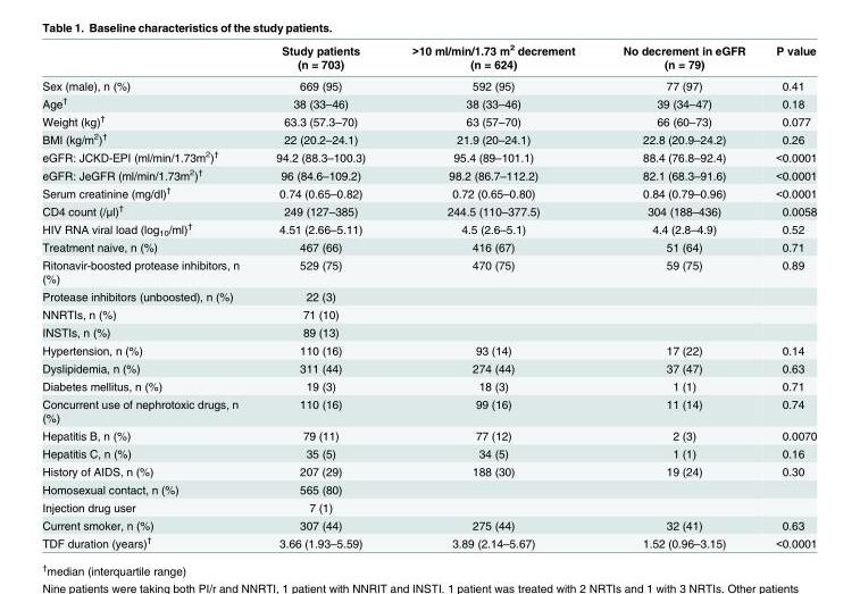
<table><thead><tr><td></td><td>Study patients (n = 703)</td><td>&gt;10 ml/min/1.73 m<sup>2</sup> decrement (n = 624)</td><td>No decrement in eGFR (n = 79)</td><td>P value</td></tr></thead><tbody><tr><td>Sex (male), n (%)</td><td>669 (95)</td><td>592 (95)</td><td>77 (97)</td><td>0.41</td></tr><tr><td>Age<sup>†</sup></td><td>38 (33–46)</td><td>38 (33–46)</td><td>39 (34–47)</td><td>0.18</td></tr><tr><td>Weight (kg)<sup>†</sup></td><td>63.3 (57.3–70)</td><td>63 (57–70)</td><td>66 (60–73)</td><td>0.077</td></tr><tr><td>BMI (kg/m<sup>2</sup>)<sup>†</sup></td><td>22 (20.2–24.1)</td><td>21.9 (20–24.1)</td><td>22.8 (20.9–24.2)</td><td>0.26</td></tr><tr><td>eGFR: JCKD-EPI (ml/min/1.73m<sup>2</sup>)<sup>†</sup></td><td>94.2 (88.3–100.3)</td><td>95.4 (89–101.1)</td><td>88.4 (76.8–92.4)</td><td>&lt;0.0001</td></tr><tr><td>eGFR: JeGFR (ml/min/1.73m<sup>2</sup>)<sup>†</sup></td><td>96 (84.6–109.2)</td><td>98.2 (86.7–112.2)</td><td>82.1 (68.3–91.6)</td><td>&lt;0.0001</td></tr><tr><td>Serum creatinine (mg/dl)<sup>†</sup></td><td>0.74 (0.65–0.82)</td><td>0.72 (0.65–0.80)</td><td>0.84 (0.79–0.96)</td><td>&lt;0.0001</td></tr><tr><td>CD4 count (/μl)<sup>†</sup></td><td>249 (127–385)</td><td>244.5 (110–377.5)</td><td>304 (188–436)</td><td>0.0058</td></tr><tr><td>HIV RNA viral load (log<sub>10</sub>/ml)<sup>†</sup></td><td>4.51 (2.66–5.11)</td><td>4.5 (2.6–5.1)</td><td>4.4 (2.8–4.9)</td><td>0.52</td></tr><tr><td>Treatment naive, n (%)</td><td>467 (66)</td><td>416 (67)</td><td>51 (64)</td><td>0.71</td></tr><tr><td>Ritonavir-boosted protease inhibitors, n (%)</td><td>529 (75)</td><td>470 (75)</td><td>59 (75)</td><td>0.89</td></tr><tr><td>Protease inhibitors (unboosted), n (%)</td><td>22 (3)</td><td></td><td></td><td></td></tr><tr><td>NNRTIs, n (%)</td><td>71 (10)</td><td></td><td></td><td></td></tr><tr><td>INSTIs, n (%)</td><td>89 (13)</td><td></td><td></td><td></td></tr><tr><td>Hypertension, n (%)</td><td>110 (16)</td><td>93 (14)</td><td>17 (22)</td><td>0.14</td></tr><tr><td>Dyslipidemia, n (%)</td><td>311 (44)</td><td>274 (44)</td><td>37 (47)</td><td>0.63</td></tr><tr><td>Diabetes mellitus, n (%)</td><td>19 (3)</td><td>18 (3)</td><td>1 (1)</td><td>0.71</td></tr><tr><td>Concurrent use of nephrotoxic drugs, n (%)</td><td>110 (16)</td><td>99 (16)</td><td>11 (14)</td><td>0.74</td></tr><tr><td>Hepatitis B, n (%)</td><td>79 (11)</td><td>77 (12)</td><td>2 (3)</td><td>0.0070</td></tr><tr><td>Hepatitis C, n (%)</td><td>35 (5)</td><td>34 (5)</td><td>1 (1)</td><td>0.16</td></tr><tr><td>History of AIDS, n (%)</td><td>207 (29)</td><td>188 (30)</td><td>19 (24)</td><td>0.30</td></tr><tr><td>Homosexual contact, n (%)</td><td>565 (80)</td><td></td><td></td><td></td></tr><tr><td>Injection drug user</td><td>7 (1)</td><td></td><td></td><td></td></tr><tr><td>Current smoker, n (%)</td><td>307 (44)</td><td>275 (44)</td><td>32 (41)</td><td>0.63</td></tr><tr><td>TDF duration (years)<sup>†</sup></td><td>3.66 (1.93–5.59)</td><td>3.89 (2.14–5.67)</td><td>1.52 (0.96–3.15)</td><td>&lt;0.0001</td></tr></tbody></table>